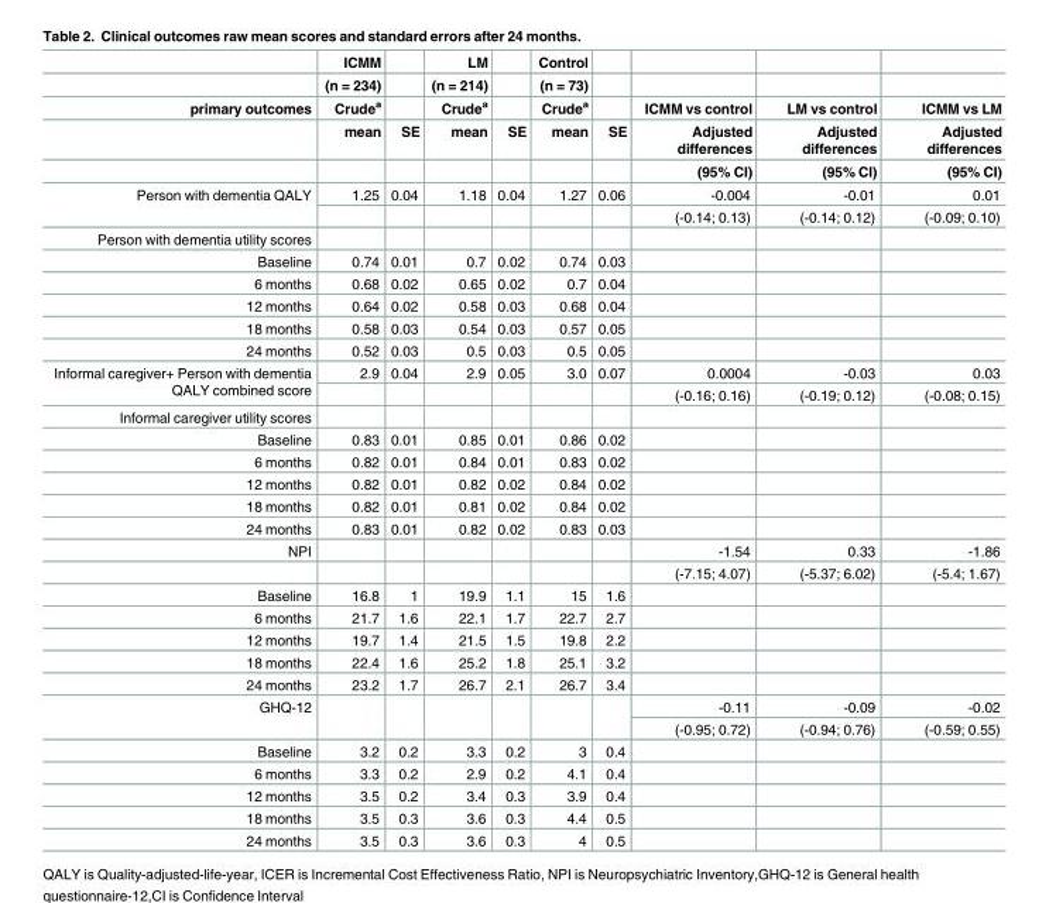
<table><thead><tr><td rowspan="5">primary outcomes</td><td rowspan="5">ICMM (n = 234) Crude<sup>a</sup> mean</td><td rowspan="5">SE</td><td rowspan="5">LM (n = 214) Crude<sup>a</sup> mean</td><td rowspan="5">SE</td><td rowspan="5">Control (n = 73) Crude<sup>a</sup> mean</td><td rowspan="5">SE</td><td rowspan="5">ICMM vs control Adjusted differences (95% CI)</td><td rowspan="5">LM vs control Adjusted differences (95% CI)</td><td rowspan="5">ICMM vs LM Adjusted differences (95% CI)</td></tr><tr></tr><tr></tr><tr></tr><tr></tr></thead><tbody><tr><td rowspan="2">Person with dementia QALY</td><td>1.25</td><td>0.04</td><td>1.18</td><td>0.04</td><td>1.27</td><td>0.06</td><td>-0.004</td><td>-0.01</td><td>0.01</td></tr><tr><td></td><td></td><td></td><td></td><td></td><td></td><td>(-0.14; 0.13)</td><td>(-0.14; 0.12)</td><td>(-0.09; 0.10)</td></tr><tr><td colspan="10">Person with dementia utility scores</td></tr><tr><td>Baseline</td><td>0.74</td><td>0.01</td><td>0.7</td><td>0.02</td><td>0.74</td><td>0.03</td><td></td><td></td><td></td></tr><tr><td>6 months</td><td>0.68</td><td>0.02</td><td>0.65</td><td>0.02</td><td>0.7</td><td>0.04</td><td></td><td></td><td></td></tr><tr><td>12 months</td><td>0.64</td><td>0.02</td><td>0.58</td><td>0.03</td><td>0.68</td><td>0.04</td><td></td><td></td><td></td></tr><tr><td>18 months</td><td>0.58</td><td>0.03</td><td>0.54</td><td>0.03</td><td>0.57</td><td>0.05</td><td></td><td></td><td></td></tr><tr><td>24 months</td><td>0.52</td><td>0.03</td><td>0.5</td><td>0.03</td><td>0.5</td><td>0.05</td><td></td><td></td><td></td></tr><tr><td rowspan="2">Informal caregiver+ Person with dementia QALY combined score</td><td>2.9</td><td>0.04</td><td>2.9</td><td>0.05</td><td>3.0</td><td>0.07</td><td>0.0004</td><td>-0.03</td><td>0.03</td></tr><tr><td></td><td></td><td></td><td></td><td></td><td></td><td>(-0.16; 0.16)</td><td>(-0.19; 0.12)</td><td>(-0.08; 0.15)</td></tr><tr><td colspan="10">Informal caregiver utility scores</td></tr><tr><td>Baseline</td><td>0.83</td><td>0.01</td><td>0.85</td><td>0.01</td><td>0.86</td><td>0.02</td><td></td><td></td><td></td></tr><tr><td>6 months</td><td>0.82</td><td>0.01</td><td>0.84</td><td>0.01</td><td>0.83</td><td>0.02</td><td></td><td></td><td></td></tr><tr><td>12 months</td><td>0.82</td><td>0.01</td><td>0.82</td><td>0.02</td><td>0.84</td><td>0.02</td><td></td><td></td><td></td></tr><tr><td>18 months</td><td>0.82</td><td>0.01</td><td>0.81</td><td>0.02</td><td>0.84</td><td>0.02</td><td></td><td></td><td></td></tr><tr><td>24 months</td><td>0.83</td><td>0.01</td><td>0.82</td><td>0.02</td><td>0.83</td><td>0.03</td><td></td><td></td><td></td></tr><tr><td rowspan="2">NPI</td><td></td><td></td><td></td><td></td><td></td><td></td><td>-1.54</td><td>0.33</td><td>-1.86</td></tr><tr><td></td><td></td><td></td><td></td><td></td><td></td><td>(-7.15; 4.07)</td><td>(-5.37; 6.02)</td><td>(-5.4; 1.67)</td></tr><tr><td>Baseline</td><td>16.8</td><td>1</td><td>19.9</td><td>1.1</td><td>15</td><td>1.6</td><td></td><td></td><td></td></tr><tr><td>6 months</td><td>21.7</td><td>1.6</td><td>22.1</td><td>1.7</td><td>22.7</td><td>2.7</td><td></td><td></td><td></td></tr><tr><td>12 months</td><td>19.7</td><td>1.4</td><td>21.5</td><td>1.5</td><td>19.8</td><td>2.2</td><td></td><td></td><td></td></tr><tr><td>18 months</td><td>22.4</td><td>1.6</td><td>25.2</td><td>1.8</td><td>25.1</td><td>3.2</td><td></td><td></td><td></td></tr><tr><td>24 months</td><td>23.2</td><td>1.7</td><td>26.7</td><td>2.1</td><td>26.7</td><td>3.4</td><td></td><td></td><td></td></tr><tr><td rowspan="2">GHQ-12</td><td rowspan="2"></td><td rowspan="2"></td><td rowspan="2"></td><td rowspan="2"></td><td rowspan="2"></td><td rowspan="2"></td><td>-0.11</td><td>-0.09</td><td>-0.02</td></tr><tr><td>(-0.95; 0.72)</td><td>(-0.94; 0.76)</td><td>(-0.59; 0.55)</td></tr><tr><td>Baseline</td><td>3.2</td><td>0.2</td><td>3.3</td><td>0.2</td><td>3</td><td>0.4</td><td></td><td></td><td></td></tr><tr><td>6 months</td><td>3.3</td><td>0.2</td><td>2.9</td><td>0.2</td><td>4.1</td><td>0.4</td><td></td><td></td><td></td></tr><tr><td>12 months</td><td>3.5</td><td>0.2</td><td>3.4</td><td>0.3</td><td>3.9</td><td>0.4</td><td></td><td></td><td></td></tr><tr><td>18 months</td><td>3.5</td><td>0.3</td><td>3.6</td><td>0.3</td><td>4.4</td><td>0.5</td><td></td><td></td><td></td></tr><tr><td>24 months</td><td>3.5</td><td>0.3</td><td>3.6</td><td>0.3</td><td>4</td><td>0.5</td><td></td><td></td><td></td></tr></tbody></table>